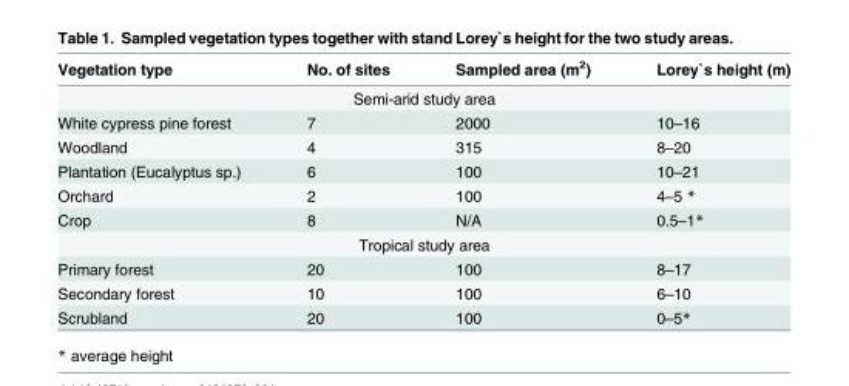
<table><thead><tr><td>Vegetation type</td><td>No. of sites</td><td>Sampled area (m<sup>2</sup>)</td><td>Lorey`s height (m)</td></tr></thead><tbody><tr><td colspan="4">Semi-arid study area</td></tr><tr><td>White cypress pine forest</td><td>7</td><td>2000</td><td>10–16</td></tr><tr><td>Woodland</td><td>4</td><td>315</td><td>8–20</td></tr><tr><td>Plantation (Eucalyptus sp.)</td><td>6</td><td>100</td><td>10–21</td></tr><tr><td>Orchard</td><td>2</td><td>100</td><td>4–5 *</td></tr><tr><td>Crop</td><td>8</td><td>N/A</td><td>0.5–1*</td></tr><tr><td colspan="4">Tropical study area</td></tr><tr><td>Primary forest</td><td>20</td><td>100</td><td>8–17</td></tr><tr><td>Secondary forest</td><td>10</td><td>100</td><td>6–10</td></tr><tr><td>Scrubland</td><td>20</td><td>100</td><td>0–5*</td></tr></tbody></table>